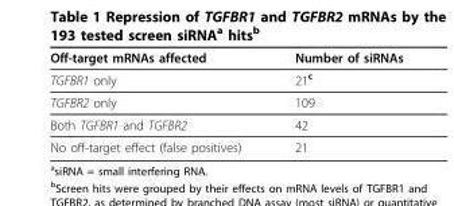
<table><thead><tr><td>Off-target mRNAs affected</td><td>Number of siRNAs</td></tr></thead><tbody><tr><td>TGFBR1 only</td><td>21<sup>c</sup></td></tr><tr><td>TGFBR2 only</td><td>109</td></tr><tr><td>Both TGFBR1 and TGFBR2</td><td>42</td></tr><tr><td>No off-target effect (false positives)</td><td>21</td></tr></tbody></table>